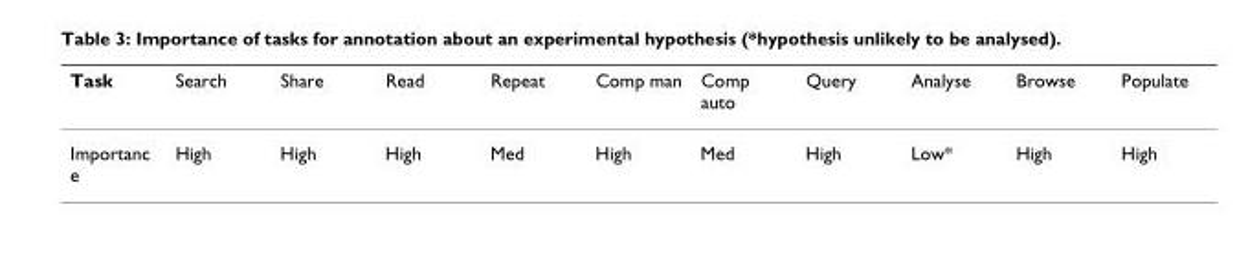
<table><thead><tr><td>Task</td><td>Search</td><td>Share</td><td>Read</td><td>Repeat</td><td>Comp man</td><td>Comp auto</td><td>Query</td><td>Analyse</td><td>Browse</td><td>Populate</td></tr></thead><tbody><tr><td>Importanc e</td><td>High</td><td>High</td><td>High</td><td>Med</td><td>High</td><td>Med</td><td>High</td><td>Low*</td><td>High</td><td>High</td></tr></tbody></table>